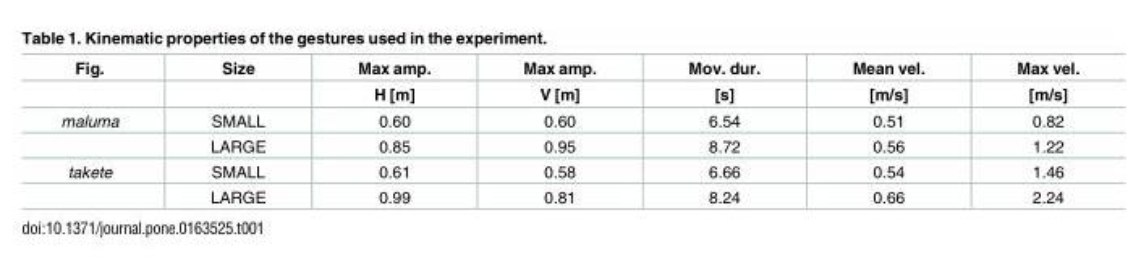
<table><thead><tr><td rowspan="2">Fig.</td><td rowspan="2">Size</td><td rowspan="2">Max amp. H [m]</td><td rowspan="2">Max amp. V [m]</td><td rowspan="2">Mov. dur. [s]</td><td rowspan="2">Mean vel. [m/s]</td><td rowspan="2">Max vel. [m/s]</td></tr><tr></tr></thead><tbody><tr><td rowspan="2">maluma</td><td>SMALL</td><td>0.60</td><td>0.60</td><td>6.54</td><td>0.51</td><td>0.82</td></tr><tr><td>LARGE</td><td>0.85</td><td>0.95</td><td>8.72</td><td>0.56</td><td>1.22</td></tr><tr><td rowspan="2">takete</td><td>SMALL</td><td>0.61</td><td>0.58</td><td>6.66</td><td>0.54</td><td>1.46</td></tr><tr><td>LARGE</td><td>0.99</td><td>0.81</td><td>8.24</td><td>0.66</td><td>2.24</td></tr></tbody></table>